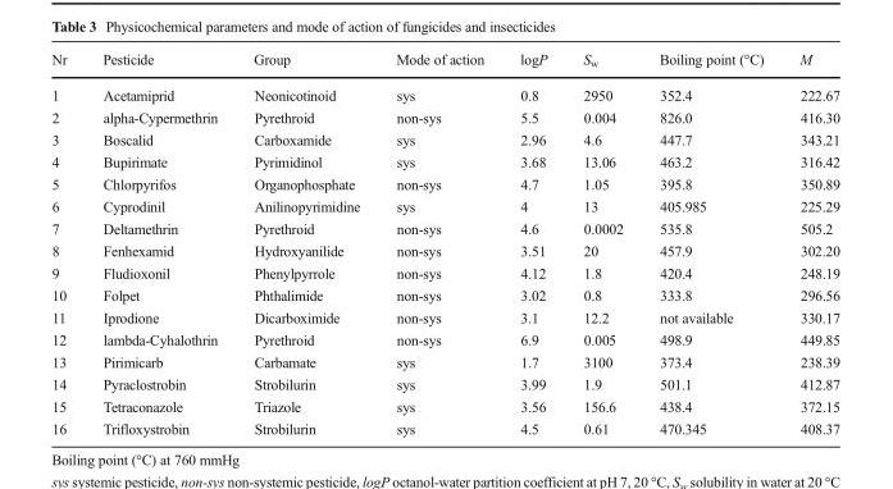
<table><thead><tr><td>Nr</td><td>Pesticide</td><td>Group</td><td>Mode of action</td><td>logP</td><td>S<sub>w</sub></td><td>Boiling point (°C)</td><td>M</td></tr></thead><tbody><tr><td>1</td><td>Acetamiprid</td><td>Neonicotinoid</td><td>sys</td><td>0.8</td><td>2950</td><td>352.4</td><td>222.67</td></tr><tr><td>2</td><td>alpha-Cypermethrin</td><td>Pyrethroid</td><td>non-sys</td><td>5.5</td><td>0.004</td><td>826.0</td><td>416.30</td></tr><tr><td>3</td><td>Boscalid</td><td>Carboxamide</td><td>sys</td><td>2.96</td><td>4.6</td><td>447.7</td><td>343.21</td></tr><tr><td>4</td><td>Bupirimate</td><td>Pyrimidinol</td><td>sys</td><td>3.68</td><td>13.06</td><td>463.2</td><td>316.42</td></tr><tr><td>5</td><td>Chlorpyrifos</td><td>Organophosphate</td><td>non-sys</td><td>4.7</td><td>1.05</td><td>395.8</td><td>350.89</td></tr><tr><td>6</td><td>Cyprodinil</td><td>Anilinopyrimidine</td><td>sys</td><td>4</td><td>13</td><td>405.985</td><td>225.29</td></tr><tr><td>7</td><td>Deltamethrin</td><td>Pyrethroid</td><td>non-sys</td><td>4.6</td><td>0.0002</td><td>535.8</td><td>505.2</td></tr><tr><td>8</td><td>Fenhexamid</td><td>Hydroxyanilide</td><td>non-sys</td><td>3.51</td><td>20</td><td>457.9</td><td>302.20</td></tr><tr><td>9</td><td>Fludioxonil</td><td>Phenylpyrrole</td><td>non-sys</td><td>4.12</td><td>1.8</td><td>420.4</td><td>248.19</td></tr><tr><td>10</td><td>Folpet</td><td>Phthalimide</td><td>non-sys</td><td>3.02</td><td>0.8</td><td>333.8</td><td>296.56</td></tr><tr><td>11</td><td>Iprodione</td><td>Dicarboximide</td><td>non-sys</td><td>3.1</td><td>12.2</td><td>not available</td><td>330.17</td></tr><tr><td>12</td><td>lambda-Cyhalothrin</td><td>Pyrethroid</td><td>non-sys</td><td>6.9</td><td>0.005</td><td>498.9</td><td>449.85</td></tr><tr><td>13</td><td>Pirimicarb</td><td>Carbamate</td><td>sys</td><td>1.7</td><td>3100</td><td>373.4</td><td>238.39</td></tr><tr><td>14</td><td>Pyraclostrobin</td><td>Strobilurin</td><td>sys</td><td>3.99</td><td>1.9</td><td>501.1</td><td>412.87</td></tr><tr><td>15</td><td>Tetraconazole</td><td>Triazole</td><td>sys</td><td>3.56</td><td>156.6</td><td>438.4</td><td>372.15</td></tr><tr><td>16</td><td>Trifloxystrobin</td><td>Strobilurin</td><td>sys</td><td>4.5</td><td>0.61</td><td>470.345</td><td>408.37</td></tr></tbody></table>